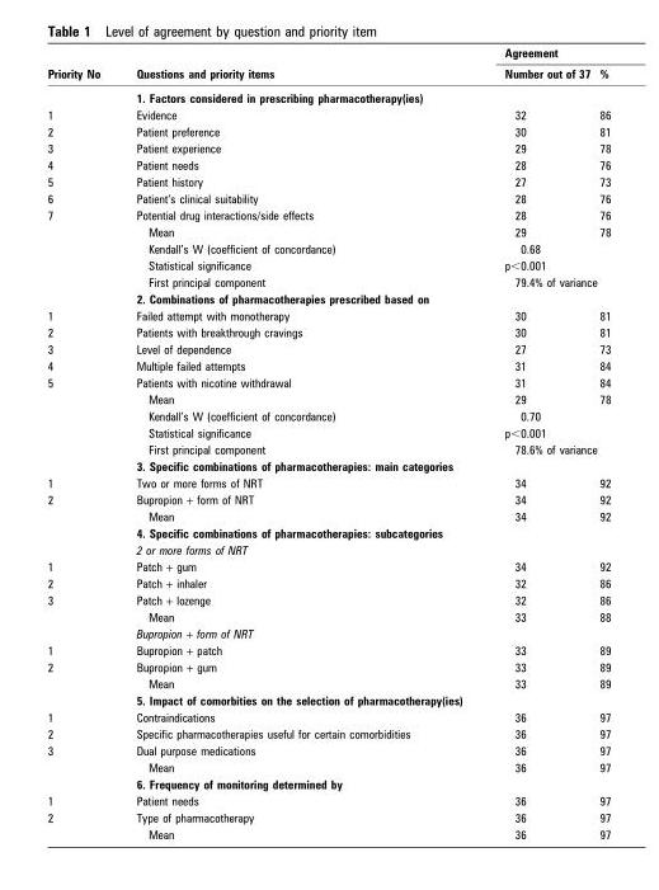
<table><thead><tr><td rowspan="2">Priority No</td><td rowspan="2">Questions and priority items</td><td colspan="2">Agreement</td></tr><tr><td>Number out of 37</td><td>%</td></tr></thead><tbody><tr><td></td><td>1. Factors considered in prescribing pharmacotherapy(ies)</td><td></td><td></td></tr><tr><td>1</td><td>Evidence</td><td>32</td><td>86</td></tr><tr><td>2</td><td>Patient preference</td><td>30</td><td>81</td></tr><tr><td>3</td><td>Patient experience</td><td>29</td><td>78</td></tr><tr><td>4</td><td>Patient needs</td><td>28</td><td>76</td></tr><tr><td>5</td><td>Patient history</td><td>27</td><td>73</td></tr><tr><td>6</td><td>Patient’s clinical suitability</td><td>28</td><td>76</td></tr><tr><td rowspan="6">7</td><td>Potential drug interactions/side effects</td><td>28</td><td>76</td></tr><tr><td>Mean</td><td>29</td><td>78</td></tr><tr><td>Kendall’s W (coefficient of concordance)</td><td>0.68</td><td></td></tr><tr><td>Statistical significance</td><td>p&lt;0.001</td><td></td></tr><tr><td>First principal component</td><td>79.4% of variance</td><td></td></tr><tr><td>2. Combinations of pharmacotherapies prescribed based on</td><td></td><td></td></tr><tr><td>1</td><td>Failed attempt with monotherapy</td><td>30</td><td>81</td></tr><tr><td>2</td><td>Patients with breakthrough cravings</td><td>30</td><td>81</td></tr><tr><td>3</td><td>Level of dependence</td><td>27</td><td>73</td></tr><tr><td>4</td><td>Multiple failed attempts</td><td>31</td><td>84</td></tr><tr><td rowspan="6">5</td><td>Patients with nicotine withdrawal</td><td>31</td><td>84</td></tr><tr><td>Mean</td><td>29</td><td>78</td></tr><tr><td>Kendall’s W (coefficient of concordance)</td><td>0.70</td><td></td></tr><tr><td>Statistical significance</td><td>p&lt;0.001</td><td></td></tr><tr><td>First principal component</td><td>78.6% of variance</td><td></td></tr><tr><td>3. Specific combinations of pharmacotherapies: main categories</td><td></td><td></td></tr><tr><td>1</td><td>Two or more forms of NRT</td><td>34</td><td>92</td></tr><tr><td rowspan="4">2</td><td>Bupropion + form of NRT</td><td>34</td><td>92</td></tr><tr><td>Mean</td><td>34</td><td>92</td></tr><tr><td>4. Specific combinations of pharmacotherapies: subcategories</td><td></td><td></td></tr><tr><td>2 or more forms of NRT</td><td></td><td></td></tr><tr><td>1</td><td>Patch + gum</td><td>34</td><td>92</td></tr><tr><td>2</td><td>Patch + inhaler</td><td>32</td><td>86</td></tr><tr><td rowspan="3">3</td><td>Patch + lozenge</td><td>32</td><td>86</td></tr><tr><td>Mean</td><td>33</td><td>88</td></tr><tr><td>Bupropion + form of NRT</td><td></td><td></td></tr><tr><td>1</td><td>Bupropion + patch</td><td>33</td><td>89</td></tr><tr><td rowspan="3">2</td><td>Bupropion + gum</td><td>33</td><td>89</td></tr><tr><td>Mean</td><td>33</td><td>89</td></tr><tr><td>5. Impact of comorbities on the selection of pharmacotherapy(ies)</td><td></td><td></td></tr><tr><td>1</td><td>Contraindications</td><td>36</td><td>97</td></tr><tr><td>2</td><td>Specific pharmacotherapies useful for certain comorbidities</td><td>36</td><td>97</td></tr><tr><td rowspan="3">3</td><td>Dual purpose medications</td><td>36</td><td>97</td></tr><tr><td>Mean</td><td>36</td><td>97</td></tr><tr><td>6. Frequency of monitoring determined by</td><td></td><td></td></tr><tr><td>1</td><td>Patient needs</td><td>36</td><td>97</td></tr><tr><td rowspan="2">2</td><td>Type of pharmacotherapy</td><td>36</td><td>97</td></tr><tr><td>Mean</td><td>36</td><td>97</td></tr></tbody></table>